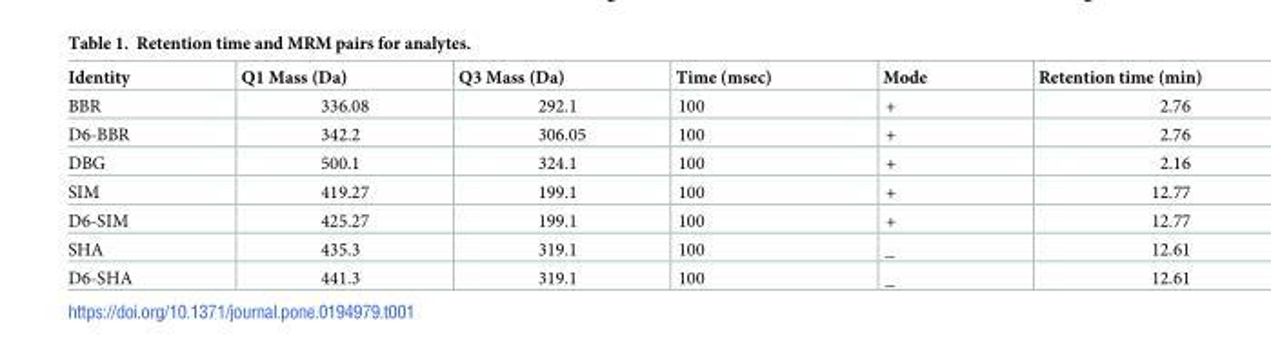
<table><thead><tr><td>Identity</td><td>Q1 Mass (Da)</td><td>Q3 Mass (Da)</td><td>Time (msec)</td><td>Mode</td><td>Retention time (min)</td></tr></thead><tbody><tr><td>BBR</td><td>336.08</td><td>292.1</td><td>100</td><td>+</td><td>2.76</td></tr><tr><td>D6-BBR</td><td>342.2</td><td>306.05</td><td>100</td><td>+</td><td>2.76</td></tr><tr><td>DBG</td><td>500.1</td><td>324.1</td><td>100</td><td>+</td><td>2.16</td></tr><tr><td>SIM</td><td>419.27</td><td>199.1</td><td>100</td><td>+</td><td>12.77</td></tr><tr><td>D6-SIM</td><td>425.27</td><td>199.1</td><td>100</td><td>+</td><td>12.77</td></tr><tr><td>SHA</td><td>435.3</td><td>319.1</td><td>100</td><td>_</td><td>12.61</td></tr><tr><td>D6-SHA</td><td>441.3</td><td>319.1</td><td>100</td><td>_</td><td>12.61</td></tr></tbody></table>